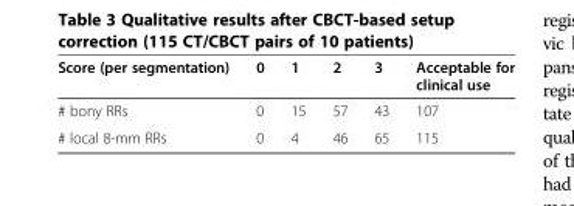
<table><thead><tr><td>Score (per segmentation)</td><td>0</td><td>1</td><td>2</td><td>3</td><td>Acceptable for clinical use</td></tr></thead><tbody><tr><td># bony RRs</td><td>0</td><td>15</td><td>57</td><td>43</td><td>107</td></tr><tr><td># local 8-mm RRs</td><td>0</td><td>4</td><td>46</td><td>65</td><td>115</td></tr></tbody></table>